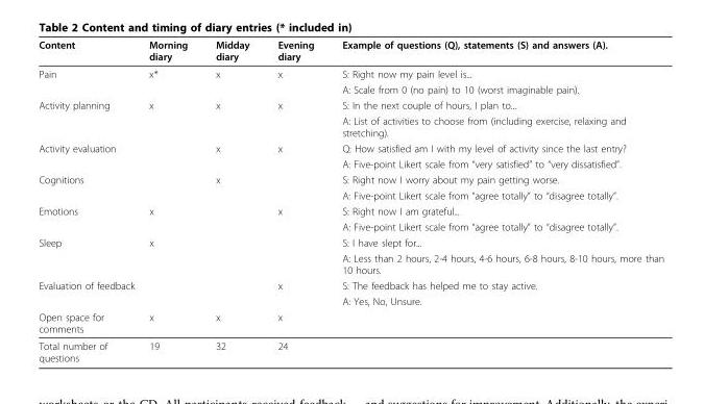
<table><thead><tr><td>Content</td><td>Morning diary</td><td>Midday diary</td><td>Evening diary</td><td>Example of questions (Q), statements (S) and answers (A).</td></tr></thead><tbody><tr><td rowspan="2">Pain</td><td>x*</td><td>x</td><td>x</td><td>S: Right now my pain level is...</td></tr><tr><td></td><td></td><td></td><td>A: Scale from 0 (no pain) to 10 (worst imaginable pain).</td></tr><tr><td rowspan="2">Activity planning</td><td>x</td><td>x</td><td>x</td><td>S: In the next couple of hours, I plan to...</td></tr><tr><td></td><td></td><td></td><td>A: List of activities to choose from (including exercise, relaxing and stretching).</td></tr><tr><td rowspan="2">Activity evaluation</td><td></td><td>x</td><td>x</td><td>Q: How satisfied am I with my level of activity since the last entry?</td></tr><tr><td></td><td></td><td></td><td>A: Five-point Likert scale from “very satisfied” to “very dissatisfied”.</td></tr><tr><td rowspan="2">Cognitions</td><td></td><td>x</td><td></td><td>S: Right now I worry about my pain getting worse.</td></tr><tr><td></td><td></td><td></td><td>A: Five-point Likert scale from “agree totally” to “disagree totally”.</td></tr><tr><td rowspan="2">Emotions</td><td>x</td><td></td><td>x</td><td>S: Right now I am grateful...</td></tr><tr><td></td><td></td><td></td><td>A: Five-point Likert scale from “agree totally” to “disagree totally”.</td></tr><tr><td rowspan="2">Sleep</td><td>x</td><td></td><td></td><td>S: I have slept for...</td></tr><tr><td></td><td></td><td></td><td>A: Less than 2 hours, 2-4 hours, 4-6 hours, 6-8 hours, 8-10 hours, more than 10 hours.</td></tr><tr><td rowspan="2">Evaluation of feedback</td><td></td><td></td><td>x</td><td>S: The feedback has helped me to stay active.</td></tr><tr><td></td><td></td><td></td><td>A: Yes, No, Unsure.</td></tr><tr><td>Open space for comments</td><td>x</td><td>x</td><td>x</td><td></td></tr><tr><td>Total number of questions</td><td>19</td><td>32</td><td>24</td><td></td></tr></tbody></table>